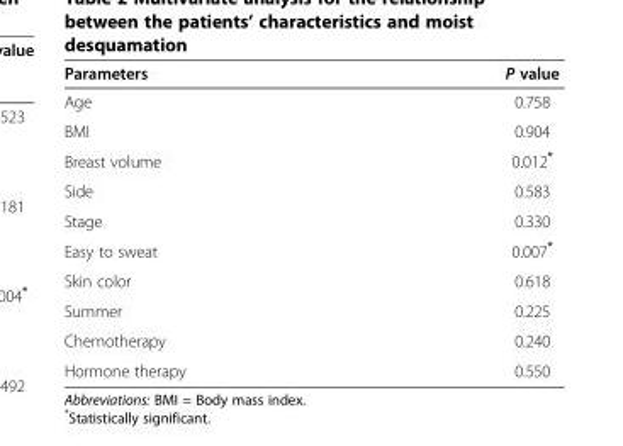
<table><thead><tr><td>Parameters</td><td>P value</td></tr></thead><tbody><tr><td>Age</td><td>0.758</td></tr><tr><td>BMI</td><td>0.904</td></tr><tr><td>Breast volume</td><td>0.012*</td></tr><tr><td>Side</td><td>0.583</td></tr><tr><td>Stage</td><td>0.330</td></tr><tr><td>Easy to sweat</td><td>0.007*</td></tr><tr><td>Skin color</td><td>0.618</td></tr><tr><td>Summer</td><td>0.225</td></tr><tr><td>Chemotherapy</td><td>0.240</td></tr><tr><td>Hormone therapy</td><td>0.550</td></tr></tbody></table>